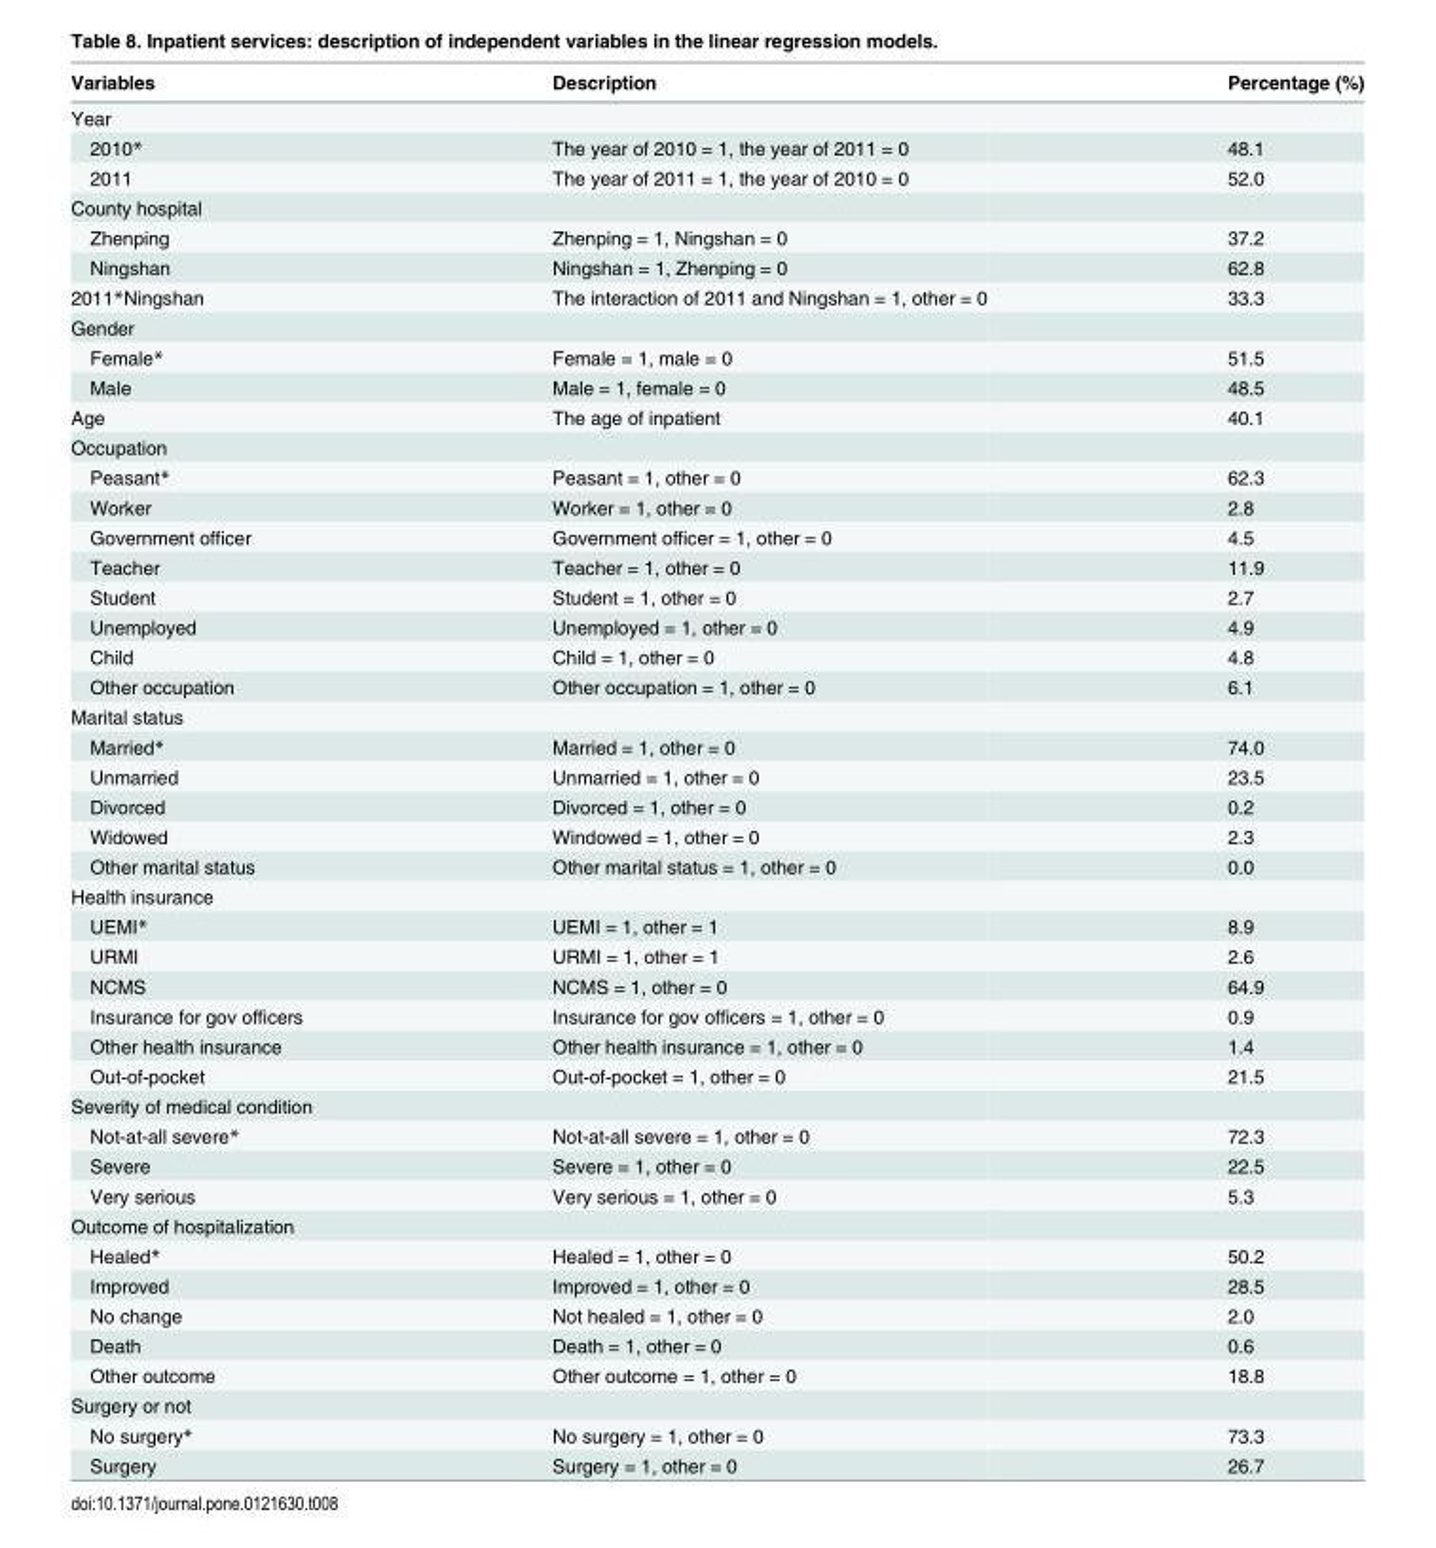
<table><thead><tr><td>Variables</td><td>Description</td><td>Percentage (%)</td></tr></thead><tbody><tr><td colspan="3">Year</td></tr><tr><td>2010*</td><td>The year of 2010 = 1, the year of 2011 = 0</td><td>48.1</td></tr><tr><td>2011</td><td>The year of 2011 = 1, the year of 2010 = 0</td><td>52.0</td></tr><tr><td colspan="3">County hospital</td></tr><tr><td>Zhenping</td><td>Zhenping = 1, Ningshan = 0</td><td>37.2</td></tr><tr><td>Ningshan</td><td>Ningshan = 1, Zhenping = 0</td><td>62.8</td></tr><tr><td>2011*Ningshan</td><td>The interaction of 2011 and Ningshan = 1, other = 0</td><td>33.3</td></tr><tr><td colspan="3">Gender</td></tr><tr><td>Female*</td><td>Female = 1, male = 0</td><td>51.5</td></tr><tr><td>Male</td><td>Male = 1, female = 0</td><td>48.5</td></tr><tr><td>Age</td><td>The age of inpatient</td><td>40.1</td></tr><tr><td colspan="3">Occupation</td></tr><tr><td>Peasant*</td><td>Peasant = 1, other = 0</td><td>62.3</td></tr><tr><td>Worker</td><td>Worker = 1, other = 0</td><td>2.8</td></tr><tr><td>Government officer</td><td>Government officer = 1, other = 0</td><td>4.5</td></tr><tr><td>Teacher</td><td>Teacher = 1, other = 0</td><td>11.9</td></tr><tr><td>Student</td><td>Student = 1, other = 0</td><td>2.7</td></tr><tr><td>Unemployed</td><td>Unemployed = 1, other = 0</td><td>4.9</td></tr><tr><td>Child</td><td>Child = 1, other = 0</td><td>4.8</td></tr><tr><td>Other occupation</td><td>Other occupation = 1, other = 0</td><td>6.1</td></tr><tr><td colspan="3">Marital status</td></tr><tr><td>Married*</td><td>Married = 1, other = 0</td><td>74.0</td></tr><tr><td>Unmarried</td><td>Unmarried = 1, other = 0</td><td>23.5</td></tr><tr><td>Divorced</td><td>Divorced = 1, other = 0</td><td>0.2</td></tr><tr><td>Widowed</td><td>Windowed = 1, other = 0</td><td>2.3</td></tr><tr><td>Other marital status</td><td>Other marital status = 1, other = 0</td><td>0.0</td></tr><tr><td colspan="3">Health insurance</td></tr><tr><td>UEMI*</td><td>UEMI = 1, other = 1</td><td>8.9</td></tr><tr><td>URMI</td><td>URMI = 1, other = 1</td><td>2.6</td></tr><tr><td>NCMS</td><td>NCMS = 1, other = 0</td><td>64.9</td></tr><tr><td>Insurance for gov officers</td><td>Insurance for gov officers = 1, other = 0</td><td>0.9</td></tr><tr><td>Other health insurance</td><td>Other health insurance = 1, other = 0</td><td>1.4</td></tr><tr><td>Out-of-pocket</td><td>Out-of-pocket = 1, other = 0</td><td>21.5</td></tr><tr><td colspan="3">Severity of medical condition</td></tr><tr><td>Not-at-all severe*</td><td>Not-at-all severe = 1, other = 0</td><td>72.3</td></tr><tr><td>Severe</td><td>Severe = 1, other = 0</td><td>22.5</td></tr><tr><td>Very serious</td><td>Very serious = 1, other = 0</td><td>5.3</td></tr><tr><td colspan="3">Outcome of hospitalization</td></tr><tr><td>Healed*</td><td>Healed = 1, other = 0</td><td>50.2</td></tr><tr><td>Improved</td><td>Improved = 1, other = 0</td><td>28.5</td></tr><tr><td>No change</td><td>Not healed = 1, other = 0</td><td>2.0</td></tr><tr><td>Death</td><td>Death = 1, other = 0</td><td>0.6</td></tr><tr><td>Other outcome</td><td>Other outcome = 1, other = 0</td><td>18.8</td></tr><tr><td colspan="3">Surgery or not</td></tr><tr><td>No surgery*</td><td>No surgery = 1, other = 0</td><td>73.3</td></tr><tr><td>Surgery</td><td>Surgery = 1, other = 0</td><td>26.7</td></tr></tbody></table>